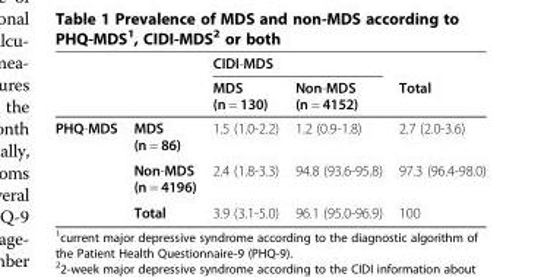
<table><thead><tr><td rowspan="2"></td><td rowspan="2"></td><td colspan="2">CIDI-MDS</td><td rowspan="2">Total</td></tr><tr><td>MDS (n = 130)</td><td>Non-MDS (n = 4152)</td></tr></thead><tbody><tr><td rowspan="3">PHQ-MDS</td><td>MDS (n = 86)</td><td>1.5 (1.0-2.2)</td><td>1.2 (0.9-1.8)</td><td>2.7 (2.0-3.6)</td></tr><tr><td>Non-MDS (n = 4196)</td><td>2.4 (1.8-3.3)</td><td>94.8 (93.6-95.8)</td><td>97.3 (96.4-98.0)</td></tr><tr><td>Total</td><td>3.9 (3.1-5.0)</td><td>96.1 (95.0-96.9)</td><td>100</td></tr></tbody></table>